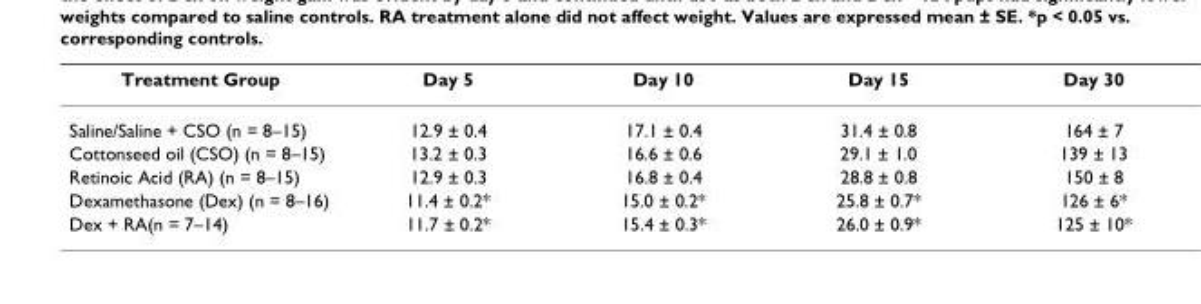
<table><thead><tr><td>Treatment Group</td><td>Day 5</td><td>Day 10</td><td>Day 15</td><td>Day 30</td></tr></thead><tbody><tr><td>Saline/Saline + CSO (n = 8–15)</td><td>12.9 ± 0.4</td><td>17.1 ± 0.4</td><td>31.4 ± 0.8</td><td>164 ± 7</td></tr><tr><td>Cottonseed oil (CSO) (n = 8–15)</td><td>13.2 ± 0.3</td><td>16.6 ± 0.6</td><td>29.1 ± 1.0</td><td>139 ± 13</td></tr><tr><td>Retinoic Acid (RA) (n = 8–15)</td><td>12.9 ± 0.3</td><td>16.8 ± 0.4</td><td>28.8 ± 0.8</td><td>150 ± 8</td></tr><tr><td>Dexamethasone (Dex) (n = 8–16)</td><td>11.4 ± 0.2*</td><td>15.0 ± 0.2*</td><td>25.8 ± 0.7*</td><td>126 ± 6*</td></tr><tr><td>Dex + RA(n = 7–14)</td><td>11.7 ± 0.2*</td><td>15.4 ± 0.3*</td><td>26.0 ± 0.9*</td><td>125 ± 10*</td></tr></tbody></table>